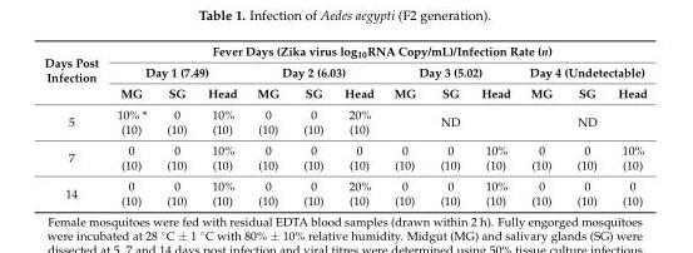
<table><thead><tr><td rowspan="3">Days Post Infection</td><td colspan="12">Fever Days (Zika virus log<sub>10</sub>RNA Copy/mL)/Infection Rate (n)</td></tr><tr><td colspan="3">Day 1 (7.49)</td><td colspan="3">Day 2 (6.03)</td><td colspan="3">Day 3 (5.02)</td><td colspan="3">Day 4 (Undetectable)</td></tr><tr><td>MG</td><td>SG</td><td>Head</td><td>MG</td><td>SG</td><td>Head</td><td>MG</td><td>SG</td><td>Head</td><td>MG</td><td>SG</td><td>Head</td></tr></thead><tbody><tr><td>5</td><td>10% * (10)</td><td>0 (10)</td><td>10% (10)</td><td>0 (10)</td><td>0 (10)</td><td>20% (10)</td><td colspan="3">ND</td><td colspan="3">ND</td></tr><tr><td>7</td><td>0 (10)</td><td>0 (10)</td><td>10% (10)</td><td>0 (10)</td><td>0 (10)</td><td>0 (10)</td><td>0 (10)</td><td>0 (10)</td><td>10% (10)</td><td>0 (10)</td><td>0 (10)</td><td>10% (10)</td></tr><tr><td>14</td><td>0 (10)</td><td>0 (10)</td><td>10% (10)</td><td>0 (10)</td><td>0 (10)</td><td>20% (10)</td><td>0 (10)</td><td>0 (10)</td><td>10% (10)</td><td>0 (10)</td><td>0 (10)</td><td>0 (10)</td></tr></tbody></table>